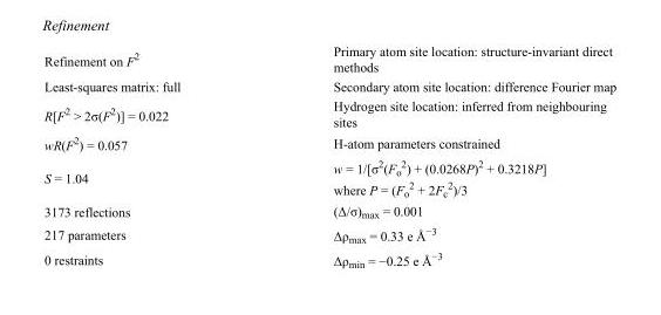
<table><tbody><tr><td>Refinement on F<sup>2</sup></td><td>Primary atom site location: structure-invariant direct methods</td></tr><tr><td>Least-squares matrix: full</td><td>Secondary atom site location: difference Fourier map</td></tr><tr><td>R[F<sup>2</sup> &gt; 2σ(F<sup>2</sup>)] = 0.022</td><td>Hydrogen site location: inferred from neighbouring sites</td></tr><tr><td>wR(F<sup>2</sup>) = 0.057</td><td>H-atom parameters constrained</td></tr><tr><td>S = 1.04</td><td>w = 1/[σ<sup>2</sup>(F<sub>o</sub> <sup>2</sup>) + (0.0268P)<sup>2</sup> + 0.3218P] where P = (F<sub>o</sub> <sup>2</sup> + 2F<sub>c</sub> <sup>2</sup>)/3</td></tr><tr><td>3173 reflections</td><td>(Δ/σ)<sub>max</sub> = 0.001</td></tr><tr><td>217 parameters</td><td>Δρ<sub>max</sub> = 0.33 e Å<sup>−3</sup></td></tr><tr><td>0 restraints</td><td>Δρmin = −0.25 e Å−3</td></tr></tbody></table>